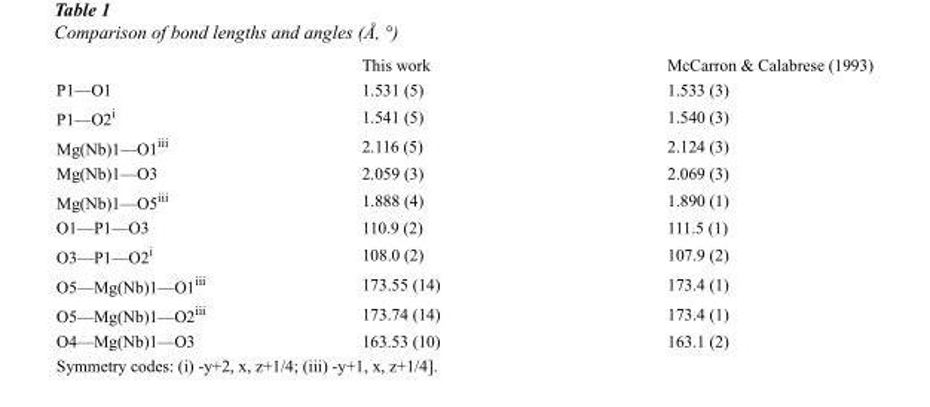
<table><thead><tr><td></td><td>This work</td><td>McCarron &amp; Calabrese (1993)</td></tr></thead><tbody><tr><td>P1—O1</td><td>1.531 (5)</td><td>1.533 (3)</td></tr><tr><td>P1—O2<sup>i</sup></td><td>1.541 (5)</td><td>1.540 (3)</td></tr><tr><td>Mg(Nb)1—O1<sup>iii</sup></td><td>2.116 (5)</td><td>2.124 (3)</td></tr><tr><td>Mg(Nb)1—O3</td><td>2.059 (3)</td><td>2.069 (3)</td></tr><tr><td>Mg(Nb)1—O5<sup>iii</sup></td><td>1.888 (4)</td><td>1.890 (1)</td></tr><tr><td>O1—P1—O3</td><td>110.9 (2)</td><td>111.5 (1)</td></tr><tr><td>O3—P1—O2<sup>i</sup></td><td>108.0 (2)</td><td>107.9 (2)</td></tr><tr><td>O5—Mg(Nb)1—O1<sup>iii</sup></td><td>173.55 (14)</td><td>173.4 (1)</td></tr><tr><td>O5—Mg(Nb)1—O2<sup>iii</sup></td><td>173.74 (14)</td><td>173.4 (1)</td></tr><tr><td>O4—Mg(Nb)1—O3</td><td>163.53 (10)</td><td>163.1 (2)</td></tr></tbody></table>